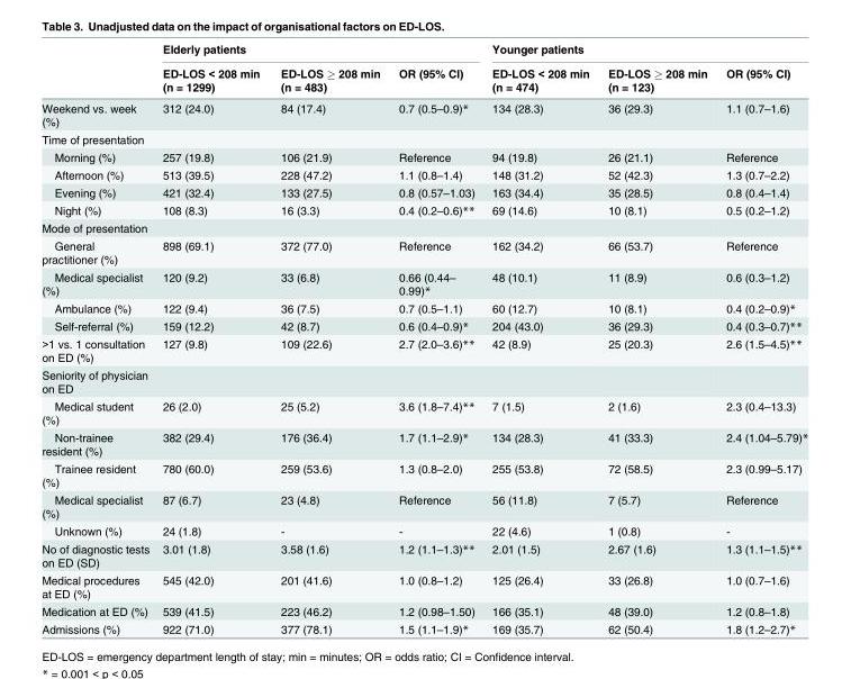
<table><thead><tr><td rowspan="2"></td><td colspan="3">Elderly patients</td><td colspan="3">Younger patients</td></tr><tr><td>ED-LOS &lt; 208 min (n = 1299)</td><td>ED-LOS ≥ 208 min (n = 483)</td><td>OR (95% CI)</td><td>ED-LOS &lt; 208 min (n = 474)</td><td>ED-LOS ≥ 208 min (n = 123)</td><td>OR (95% CI)</td></tr></thead><tbody><tr><td>Weekend vs. week (%)</td><td>312 (24.0)</td><td>84 (17.4)</td><td>0.7 (0.5–0.9)*</td><td>134 (28.3)</td><td>36 (29.3)</td><td>1.1 (0.7–1.6)</td></tr><tr><td colspan="7">Time of presentation</td></tr><tr><td>Morning (%)</td><td>257 (19.8)</td><td>106 (21.9)</td><td>Reference</td><td>94 (19.8)</td><td>26 (21.1)</td><td>Reference</td></tr><tr><td>Afternoon (%)</td><td>513 (39.5)</td><td>228 (47.2)</td><td>1.1 (0.8–1.4)</td><td>148 (31.2)</td><td>52 (42.3)</td><td>1.3 (0.7–2.2)</td></tr><tr><td>Evening (%)</td><td>421 (32.4)</td><td>133 (27.5)</td><td>0.8 (0.57–1.03)</td><td>163 (34.4)</td><td>35 (28.5)</td><td>0.8 (0.4–1.4)</td></tr><tr><td>Night (%)</td><td>108 (8.3)</td><td>16 (3.3)</td><td>0.4 (0.2–0.6)**</td><td>69 (14.6)</td><td>10 (8.1)</td><td>0.5 (0.2–1.2)</td></tr><tr><td colspan="7">Mode of presentation</td></tr><tr><td>General practitioner (%)</td><td>898 (69.1)</td><td>372 (77.0)</td><td>Reference</td><td>162 (34.2)</td><td>66 (53.7)</td><td>Reference</td></tr><tr><td>Medical specialist (%)</td><td>120 (9.2)</td><td>33 (6.8)</td><td>0.66 (0.44– 0.99)*</td><td>48 (10.1)</td><td>11 (8.9)</td><td>0.6 (0.3–1.2)</td></tr><tr><td>Ambulance (%)</td><td>122 (9.4)</td><td>36 (7.5)</td><td>0.7 (0.5–1.1)</td><td>60 (12.7)</td><td>10 (8.1)</td><td>0.4 (0.2–0.9)*</td></tr><tr><td>Self-referral (%)</td><td>159 (12.2)</td><td>42 (8.7)</td><td>0.6 (0.4–0.9)*</td><td>204 (43.0)</td><td>36 (29.3)</td><td>0.4 (0.3–0.7)**</td></tr><tr><td>&gt;1 vs. 1 consultation on ED (%)</td><td>127 (9.8)</td><td>109 (22.6)</td><td>2.7 (2.0–3.6)**</td><td>42 (8.9)</td><td>25 (20.3)</td><td>2.6 (1.5–4.5)**</td></tr><tr><td colspan="7">Seniority of physician on ED</td></tr><tr><td>Medical student (%)</td><td>26 (2.0)</td><td>25 (5.2)</td><td>3.6 (1.8–7.4)**</td><td>7 (1.5)</td><td>2 (1.6)</td><td>2.3 (0.4–13.3)</td></tr><tr><td>Non-trainee resident (%)</td><td>382 (29.4)</td><td>176 (36.4)</td><td>1.7 (1.1–2.9)*</td><td>134 (28.3)</td><td>41 (33.3)</td><td>2.4 (1.04–5.79)*</td></tr><tr><td>Trainee resident (%)</td><td>780 (60.0)</td><td>259 (53.6)</td><td>1.3 (0.8–2.0)</td><td>255 (53.8)</td><td>72 (58.5)</td><td>2.3 (0.99–5.17)</td></tr><tr><td>Medical specialist (%)</td><td>87 (6.7)</td><td>23 (4.8)</td><td>Reference</td><td>56 (11.8)</td><td>7 (5.7)</td><td>Reference</td></tr><tr><td>Unknown (%)</td><td>24 (1.8)</td><td>-</td><td>-</td><td>22 (4.6)</td><td>1 (0.8)</td><td>-</td></tr><tr><td>No of diagnostic tests on ED (SD)</td><td>3.01 (1.8)</td><td>3.58 (1.6)</td><td>1.2 (1.1–1.3)**</td><td>2.01 (1.5)</td><td>2.67 (1.6)</td><td>1.3 (1.1–1.5)**</td></tr><tr><td>Medical procedures at ED (%)</td><td>545 (42.0)</td><td>201 (41.6)</td><td>1.0 (0.8–1.2)</td><td>125 (26.4)</td><td>33 (26.8)</td><td>1.0 (0.7–1.6)</td></tr><tr><td>Medication at ED (%)</td><td>539 (41.5)</td><td>223 (46.2)</td><td>1.2 (0.98–1.50)</td><td>166 (35.1)</td><td>48 (39.0)</td><td>1.2 (0.8–1.8)</td></tr><tr><td>Admissions (%)</td><td>922 (71.0)</td><td>377 (78.1)</td><td>1.5 (1.1–1.9)*</td><td>169 (35.7)</td><td>62 (50.4)</td><td>1.8 (1.2–2.7)*</td></tr></tbody></table>